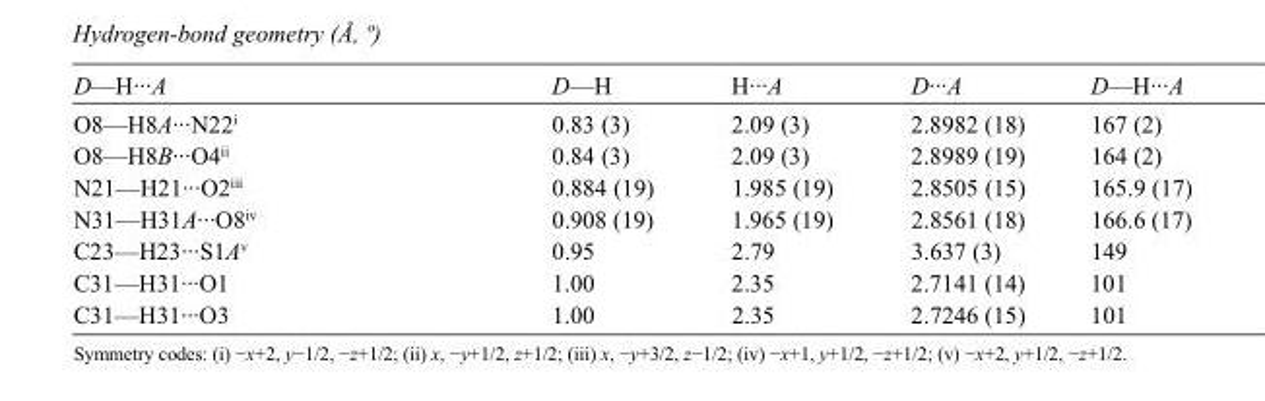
<table><tbody><tr><td>D—H···A</td><td>D—H</td><td>H···A</td><td>D···A</td><td>D—H···A</td></tr><tr><td>O8—H8A···N22<sup>i</sup></td><td>0.83 (3)</td><td>2.09 (3)</td><td>2.8982 (18)</td><td>167 (2)</td></tr><tr><td>O8—H8B···O4<sup>ii</sup></td><td>0.84 (3)</td><td>2.09 (3)</td><td>2.8989 (19)</td><td>164 (2)</td></tr><tr><td>N21—H21···O2<sup>iii</sup></td><td>0.884 (19)</td><td>1.985 (19)</td><td>2.8505 (15)</td><td>165.9 (17)</td></tr><tr><td>N31—H31A···O8<sup>iv</sup></td><td>0.908 (19)</td><td>1.965 (19)</td><td>2.8561 (18)</td><td>166.6 (17)</td></tr><tr><td>C23—H23···S1A<sup>v</sup></td><td>0.95</td><td>2.79</td><td>3.637 (3)</td><td>149</td></tr><tr><td>C31—H31···O1</td><td>1.00</td><td>2.35</td><td>2.7141 (14)</td><td>101</td></tr><tr><td>C31—H31···O3</td><td>1.00</td><td>2.35</td><td>2.7246 (15)</td><td>101</td></tr></tbody></table>